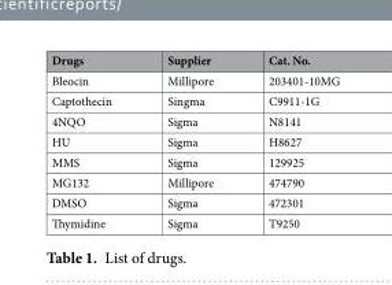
<table><thead><tr><td>Drugs</td><td>Supplier</td><td>Cat. No.</td></tr></thead><tbody><tr><td>Bleocin</td><td>Millipore</td><td>203401-10MG</td></tr><tr><td>Captothecin</td><td>Singma</td><td>C9911-1G</td></tr><tr><td>4NQO</td><td>Sigma</td><td>N8141</td></tr><tr><td>HU</td><td>Sigma</td><td>H8627</td></tr><tr><td>MMS</td><td>Sigma</td><td>129925</td></tr><tr><td>MG132</td><td>Millipore</td><td>474790</td></tr><tr><td>DMSO</td><td>Sigma</td><td>472301</td></tr><tr><td>Thymidine</td><td>Sigma</td><td>T9250</td></tr></tbody></table>